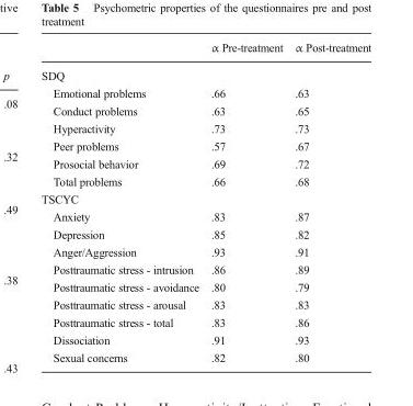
<table><thead><tr><td></td><td>α Pre-treatment</td><td>α Post-treatment</td></tr></thead><tbody><tr><td colspan="3">SDQ</td></tr><tr><td>Emotional problems</td><td>.66</td><td>.63</td></tr><tr><td>Conduct problems</td><td>.63</td><td>.65</td></tr><tr><td>Hyperactivity</td><td>.73</td><td>.73</td></tr><tr><td>Peer problems</td><td>.57</td><td>.67</td></tr><tr><td>Prosocial behavior</td><td>.69</td><td>.72</td></tr><tr><td>Total problems</td><td>.66</td><td>.68</td></tr><tr><td colspan="3">TSCYC</td></tr><tr><td>Anxiety</td><td>.83</td><td>.87</td></tr><tr><td>Depression</td><td>.85</td><td>.82</td></tr><tr><td>Anger/Aggression</td><td>.93</td><td>.91</td></tr><tr><td>Posttraumatic stress - intrusion</td><td>.86</td><td>.89</td></tr><tr><td>Posttraumatic stress - avoidance</td><td>.80</td><td>.79</td></tr><tr><td>Posttraumatic stress - arousal</td><td>.83</td><td>.83</td></tr><tr><td>Posttraumatic stress - total</td><td>.83</td><td>.86</td></tr><tr><td>Dissociation</td><td>.91</td><td>.93</td></tr><tr><td>Sexual concerns</td><td>.82</td><td>.80</td></tr></tbody></table>